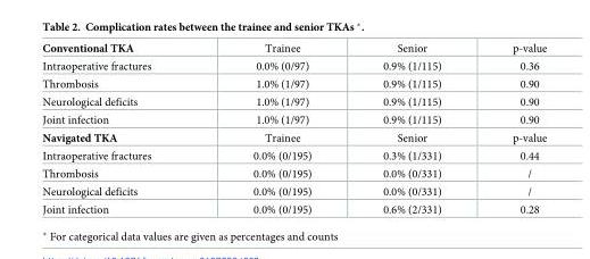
<table><tbody><tr><td>Conventional TKA</td><td>Trainee</td><td>Senior</td><td>p-value</td></tr><tr><td>Intraoperative fractures</td><td>0.0% (0/97)</td><td>0.9% (1/115)</td><td>0.36</td></tr><tr><td>Thrombosis</td><td>1.0% (1/97)</td><td>0.9% (1/115)</td><td>0.90</td></tr><tr><td>Neurological deficits</td><td>1.0% (1/97)</td><td>0.9% (1/115)</td><td>0.90</td></tr><tr><td>Joint infection</td><td>1.0% (1/97)</td><td>0.9% (1/115)</td><td>0.90</td></tr><tr><td>Navigated TKA</td><td>Trainee</td><td>Senior</td><td>p-value</td></tr><tr><td>Intraoperative fractures</td><td>0.0% (0/195)</td><td>0.3% (1/331)</td><td>0.44</td></tr><tr><td>Thrombosis</td><td>0.0% (0/195)</td><td>0.0% (0/331)</td><td>/</td></tr><tr><td>Neurological deficits</td><td>0.0% (0/195)</td><td>0.0% (0/331)</td><td>/</td></tr><tr><td>Joint infection</td><td>0.0% (0/195)</td><td>0.6% (2/331)</td><td>0.28</td></tr></tbody></table>